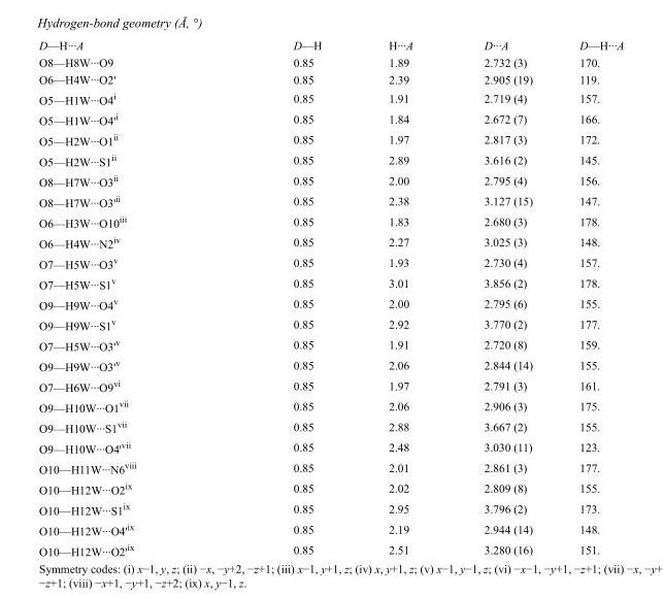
<table><tbody><tr><td>D—H···A</td><td>D—H</td><td>H···A</td><td>D···A</td><td>D—H···A</td></tr><tr><td>O8—H8W···O9</td><td>0.85</td><td>1.89</td><td>2.732 (3)</td><td>170.</td></tr><tr><td>O6—H4W···O2&#x27;</td><td>0.85</td><td>2.39</td><td>2.905 (19)</td><td>119.</td></tr><tr><td>O5—H1W···O4<sup>i</sup></td><td>0.85</td><td>1.91</td><td>2.719 (4)</td><td>157.</td></tr><tr><td>O5—H1W···O4&#x27;<sup>i</sup></td><td>0.85</td><td>1.84</td><td>2.672 (7)</td><td>166.</td></tr><tr><td>O5—H2W···O1<sup>ii</sup></td><td>0.85</td><td>1.97</td><td>2.817 (3)</td><td>172.</td></tr><tr><td>O5—H2W···S1<sup>ii</sup></td><td>0.85</td><td>2.89</td><td>3.616 (2)</td><td>145.</td></tr><tr><td>O8—H7W···O3<sup>ii</sup></td><td>0.85</td><td>2.00</td><td>2.795 (4)</td><td>156.</td></tr><tr><td>O8—H7W···O3&#x27;<sup>ii</sup></td><td>0.85</td><td>2.38</td><td>3.127 (15)</td><td>147.</td></tr><tr><td>O6—H3W···O10<sup>iii</sup></td><td>0.85</td><td>1.83</td><td>2.680 (3)</td><td>178.</td></tr><tr><td>O6—H4W···N2<sup>iv</sup></td><td>0.85</td><td>2.27</td><td>3.025 (3)</td><td>148.</td></tr><tr><td>O7—H5W···O3<sup>v</sup></td><td>0.85</td><td>1.93</td><td>2.730 (4)</td><td>157.</td></tr><tr><td>O7—H5W···S1<sup>v</sup></td><td>0.85</td><td>3.01</td><td>3.856 (2)</td><td>178.</td></tr><tr><td>O9—H9W···O4<sup>v</sup></td><td>0.85</td><td>2.00</td><td>2.795 (6)</td><td>155.</td></tr><tr><td>O9—H9W···S1<sup>v</sup></td><td>0.85</td><td>2.92</td><td>3.770 (2)</td><td>177.</td></tr><tr><td>O7—H5W···O3&#x27;<sup>v</sup></td><td>0.85</td><td>1.91</td><td>2.720 (8)</td><td>159.</td></tr><tr><td>O9—H9W···O3&#x27;<sup>v</sup></td><td>0.85</td><td>2.06</td><td>2.844 (14)</td><td>155.</td></tr><tr><td>O7—H6W···O9<sup>vi</sup></td><td>0.85</td><td>1.97</td><td>2.791 (3)</td><td>161.</td></tr><tr><td>O9—H10W···O1<sup>vii</sup></td><td>0.85</td><td>2.06</td><td>2.906 (3)</td><td>175.</td></tr><tr><td>O9—H10W···S1<sup>vii</sup></td><td>0.85</td><td>2.88</td><td>3.667 (2)</td><td>155.</td></tr><tr><td>O9—H10W···O4&#x27;<sup>vii</sup></td><td>0.85</td><td>2.48</td><td>3.030 (11)</td><td>123.</td></tr><tr><td>O10—H11W···N6<sup>viii</sup></td><td>0.85</td><td>2.01</td><td>2.861 (3)</td><td>177.</td></tr><tr><td>O10—H12W···O2<sup>ix</sup></td><td>0.85</td><td>2.02</td><td>2.809 (8)</td><td>155.</td></tr><tr><td>O10—H12W···S1<sup>ix</sup></td><td>0.85</td><td>2.95</td><td>3.796 (2)</td><td>173.</td></tr><tr><td>O10—H12W···O4&#x27;<sup>ix</sup></td><td>0.85</td><td>2.19</td><td>2.944 (14)</td><td>148.</td></tr><tr><td>O10—H12W···O2&#x27;<sup>ix</sup></td><td>0.85</td><td>2.51</td><td>3.280 (16)</td><td>151.</td></tr></tbody></table>